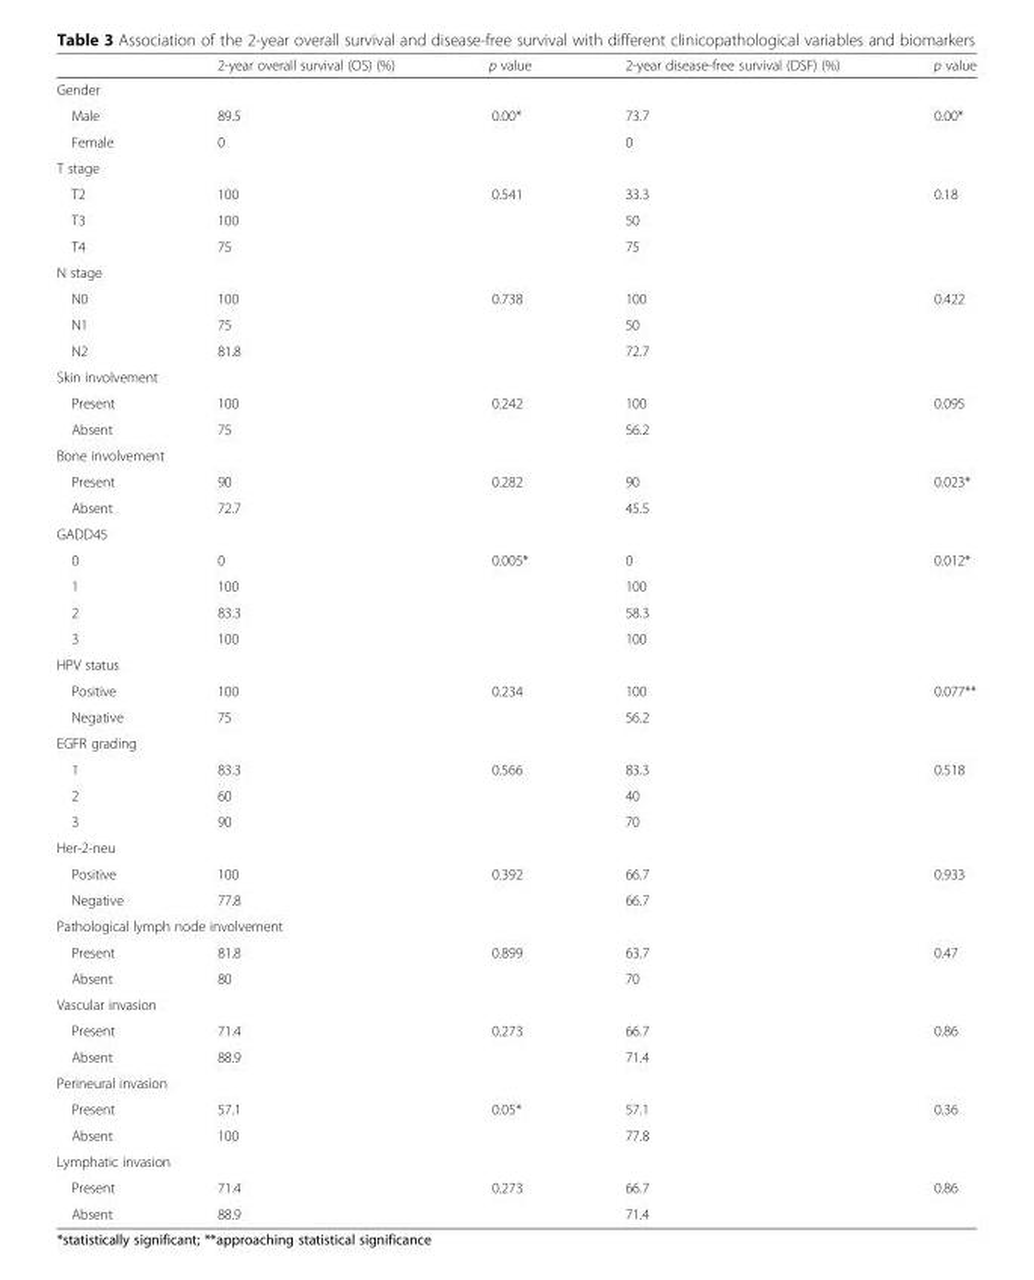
<table><thead><tr><td></td><td>2-year overall survival (OS) (%)</td><td>p value</td><td>2-year disease-free survival (DSF) (%)</td><td>p value</td></tr></thead><tbody><tr><td colspan="5">Gender</td></tr><tr><td>Male</td><td>89.5</td><td rowspan="2">0.00*</td><td>73.7</td><td rowspan="2">0.00*</td></tr><tr><td>Female</td><td>0</td><td>0</td></tr><tr><td colspan="5">T stage</td></tr><tr><td>T2</td><td>100</td><td rowspan="3">0.541</td><td>33.3</td><td rowspan="3">0.18</td></tr><tr><td>T3</td><td>100</td><td>50</td></tr><tr><td>T4</td><td>75</td><td>75</td></tr><tr><td colspan="5">N stage</td></tr><tr><td>N0</td><td>100</td><td rowspan="3">0.738</td><td>100</td><td rowspan="3">0.422</td></tr><tr><td>N1</td><td>75</td><td>50</td></tr><tr><td>N2</td><td>81.8</td><td>72.7</td></tr><tr><td colspan="5">Skin involvement</td></tr><tr><td>Present</td><td>100</td><td rowspan="2">0.242</td><td>100</td><td rowspan="2">0.095</td></tr><tr><td>Absent</td><td>75</td><td>56.2</td></tr><tr><td colspan="5">Bone involvement</td></tr><tr><td>Present</td><td>90</td><td rowspan="2">0.282</td><td>90</td><td rowspan="2">0.023*</td></tr><tr><td>Absent</td><td>72.7</td><td>45.5</td></tr><tr><td colspan="5">GADD45</td></tr><tr><td>0</td><td>0</td><td rowspan="4">0.005*</td><td>0</td><td rowspan="4">0.012*</td></tr><tr><td>1</td><td>100</td><td>100</td></tr><tr><td>2</td><td>83.3</td><td>58.3</td></tr><tr><td>3</td><td>100</td><td>100</td></tr><tr><td colspan="5">HPV status</td></tr><tr><td>Positive</td><td>100</td><td rowspan="2">0.234</td><td>100</td><td rowspan="2">0.077**</td></tr><tr><td>Negative</td><td>75</td><td>56.2</td></tr><tr><td colspan="5">EGFR grading</td></tr><tr><td>1</td><td>83.3</td><td rowspan="3">0.566</td><td>83.3</td><td rowspan="3">0.518</td></tr><tr><td>2</td><td>60</td><td>40</td></tr><tr><td>3</td><td>90</td><td>70</td></tr><tr><td colspan="5">Her-2-neu</td></tr><tr><td>Positive</td><td>100</td><td rowspan="2">0.392</td><td>66.7</td><td rowspan="2">0.933</td></tr><tr><td>Negative</td><td>77.8</td><td>66.7</td></tr><tr><td colspan="5">Pathological lymph node involvement</td></tr><tr><td>Present</td><td>81.8</td><td rowspan="2">0.899</td><td>63.7</td><td rowspan="2">0.47</td></tr><tr><td>Absent</td><td>80</td><td>70</td></tr><tr><td colspan="5">Vascular invasion</td></tr><tr><td>Present</td><td>71.4</td><td rowspan="2">0.273</td><td>66.7</td><td rowspan="2">0.86</td></tr><tr><td>Absent</td><td>88.9</td><td>71.4</td></tr><tr><td colspan="5">Perineural invasion</td></tr><tr><td>Present</td><td>57.1</td><td rowspan="2">0.05*</td><td>57.1</td><td rowspan="2">0.36</td></tr><tr><td>Absent</td><td>100</td><td>77.8</td></tr><tr><td colspan="5">Lymphatic invasion</td></tr><tr><td>Present</td><td>71.4</td><td rowspan="2">0.273</td><td>66.7</td><td rowspan="2">0.86</td></tr><tr><td>Absent</td><td>88.9</td><td>71.4</td></tr></tbody></table>